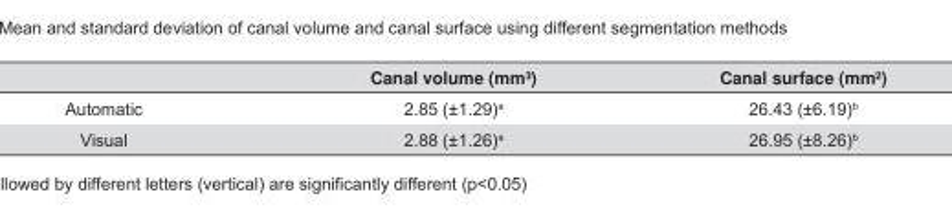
<table><thead><tr><td></td><td>Canal volume (mm³)</td><td>Canal surface (mm²)</td></tr></thead><tbody><tr><td>Automatic</td><td>2.85 (±1.29)<sup>a</sup></td><td>26.43 (±6.19)<sup>b</sup></td></tr><tr><td>Visual</td><td>2.88 (±1.26)<sup>a</sup></td><td>26.95 (±8.26)<sup>b</sup></td></tr></tbody></table>